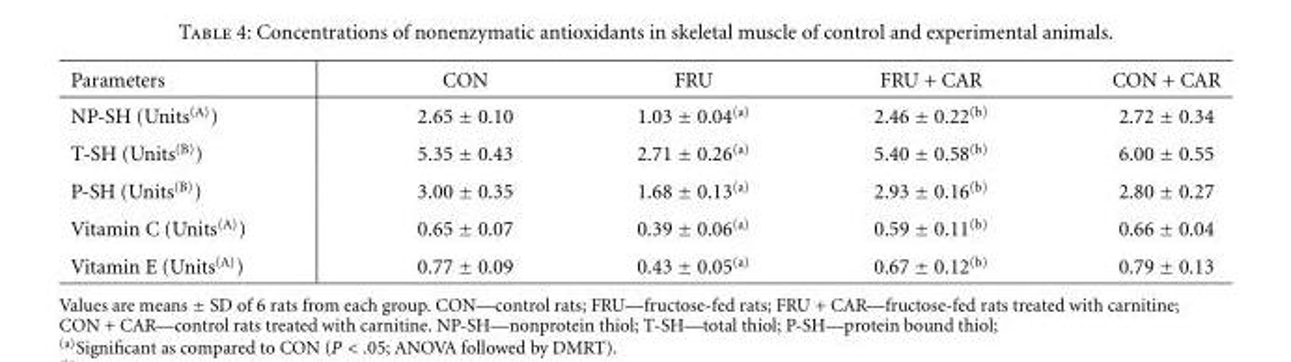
<table><tbody><tr><td>Parameters</td><td>CON</td><td>FRU</td><td>FRU + CAR</td><td>CON + CAR</td></tr><tr><td>NP-SH (Units<sup>(A)</sup>)</td><td>2.65 ± 0.10</td><td>1.03 ± 0.04<sup>(a)</sup></td><td>2.46 ± 0.22<sup>(b)</sup></td><td>2.72 ± 0.34</td></tr><tr><td>T-SH (Units<sup>(B)</sup>)</td><td>5.35 ± 0.43</td><td>2.71 ± 0.26<sup>(a)</sup></td><td>5.40 ± 0.58<sup>(b)</sup></td><td>6.00 ± 0.55</td></tr><tr><td>P-SH (Units<sup>(B)</sup>)</td><td>3.00 ± 0.35</td><td>1.68 ± 0.13<sup>(a)</sup></td><td>2.93 ± 0.16<sup>(b)</sup></td><td>2.80 ± 0.27</td></tr><tr><td>Vitamin C (Units<sup>(A)</sup>)</td><td>0.65 ± 0.07</td><td>0.39 ± 0.06<sup>(a)</sup></td><td>0.59 ± 0.11<sup>(b)</sup></td><td>0.66 ± 0.04</td></tr><tr><td>Vitamin E (Units<sup>(A)</sup>)</td><td>0.77 ± 0.09</td><td>0.43 ± 0.05<sup>(a)</sup></td><td>0.67 ± 0.12<sup>(b)</sup></td><td>0.79 ± 0.13</td></tr></tbody></table>